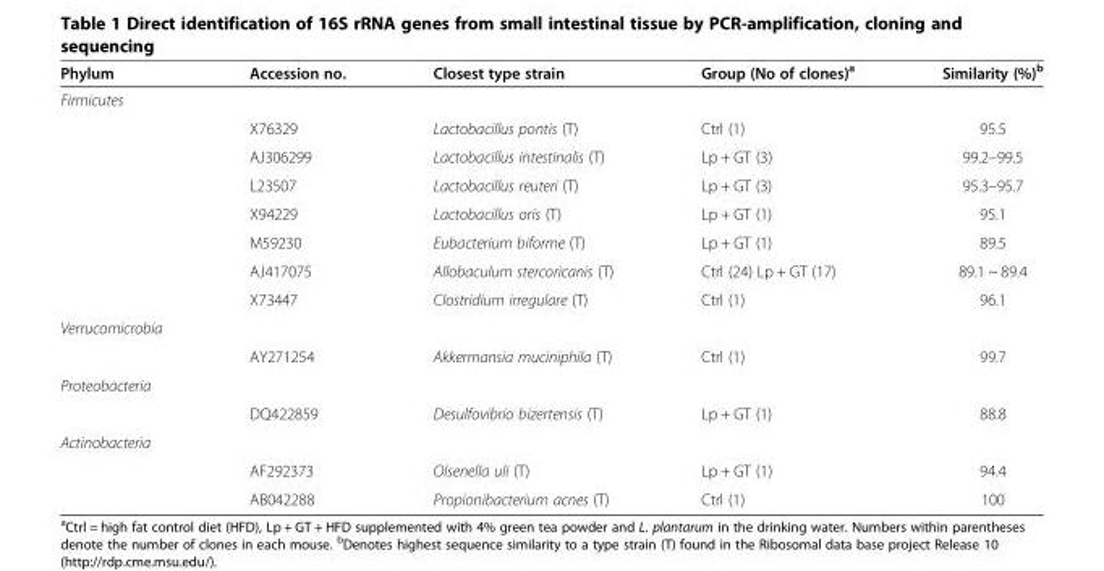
<table><thead><tr><td>Phylum</td><td>Accession no.</td><td>Closest type strain</td><td>Group (No of clones)<sup>a</sup></td><td>Similarity (%)<sup>b</sup></td></tr></thead><tbody><tr><td colspan="5">Firmicutes</td></tr><tr><td></td><td>X76329</td><td>Lactobacillus pontis (T)</td><td>Ctrl (1)</td><td>95.5</td></tr><tr><td></td><td>AJ306299</td><td>Lactobacillus intestinalis (T)</td><td>Lp + GT (3)</td><td>99.2–99.5</td></tr><tr><td></td><td>L23507</td><td>Lactobacillus reuteri (T)</td><td>Lp + GT (3)</td><td>95.3–95.7</td></tr><tr><td></td><td>X94229</td><td>Lactobacillus oris (T)</td><td>Lp + GT (1)</td><td>95.1</td></tr><tr><td></td><td>M59230</td><td>Eubacterium biforme (T)</td><td>Lp + GT (1)</td><td>89.5</td></tr><tr><td></td><td>AJ417075</td><td>Allobaculum stercoricanis (T)</td><td>Ctrl (24) Lp + GT (17)</td><td>89.1 ~ 89.4</td></tr><tr><td></td><td>X73447</td><td>Clostridium irregulare (T)</td><td>Ctrl (1)</td><td>96.1</td></tr><tr><td colspan="5">Verrucomicrobia</td></tr><tr><td></td><td>AY271254</td><td>Akkermansia muciniphila (T)</td><td>Ctrl (1)</td><td>99.7</td></tr><tr><td colspan="5">Proteobacteria</td></tr><tr><td></td><td>DQ422859</td><td>Desulfovibrio bizertensis (T)</td><td>Lp + GT (1)</td><td>88.8</td></tr><tr><td colspan="5">Actinobacteria</td></tr><tr><td></td><td>AF292373</td><td>Olsenella uli (T)</td><td>Lp + GT (1)</td><td>94.4</td></tr><tr><td></td><td>AB042288</td><td>Propionibacterium acnes (T)</td><td>Ctrl (1)</td><td>100</td></tr></tbody></table>